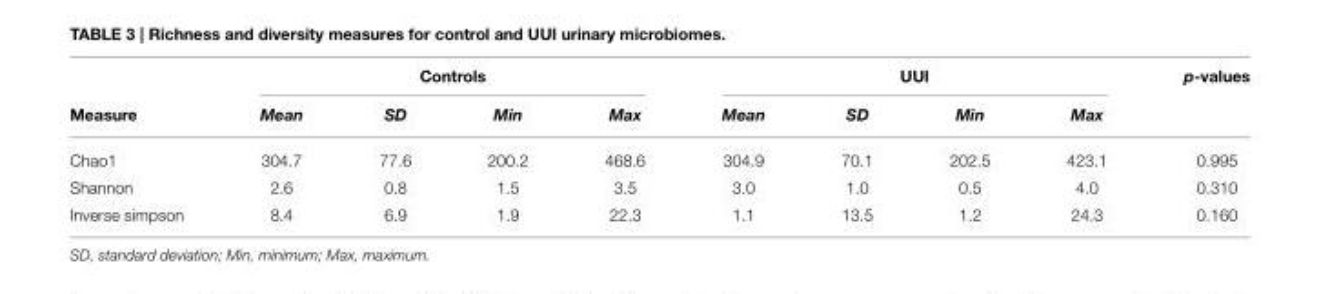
<table><thead><tr><td rowspan="2">Measure</td><td colspan="4">Controls</td><td colspan="4">UUI</td><td rowspan="2">p-values</td></tr><tr><td>Mean</td><td>SD</td><td>Min</td><td>Max</td><td>Mean</td><td>SD</td><td>Min</td><td>Max</td></tr></thead><tbody><tr><td>Chao1</td><td>304.7</td><td>77.6</td><td>200.2</td><td>468.6</td><td>304.9</td><td>70.1</td><td>202.5</td><td>423.1</td><td>0.995</td></tr><tr><td>Shannon</td><td>2.6</td><td>0.8</td><td>1.5</td><td>3.5</td><td>3.0</td><td>1.0</td><td>0.5</td><td>4.0</td><td>0.310</td></tr><tr><td>Inverse simpson</td><td>8.4</td><td>6.9</td><td>1.9</td><td>22.3</td><td>1.1</td><td>13.5</td><td>1.2</td><td>24.3</td><td>0.160</td></tr></tbody></table>